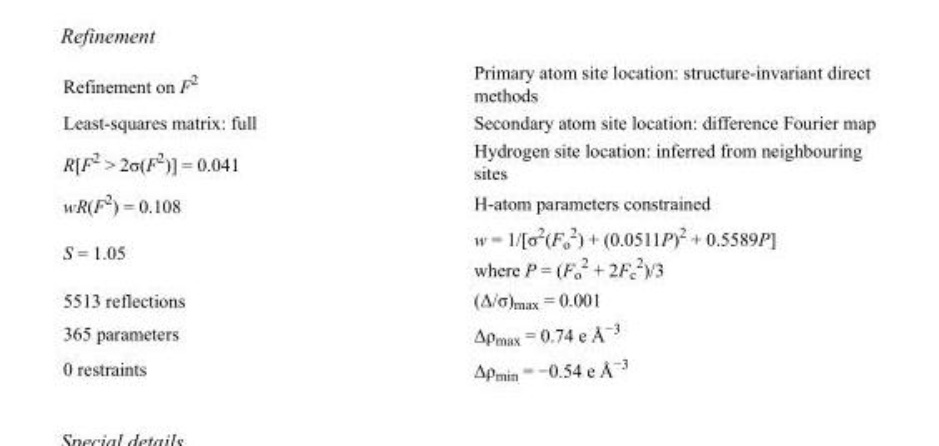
<table><tbody><tr><td>Refinement on F<sup>2</sup></td><td>Primary atom site location: structure-invariant direct methods</td></tr><tr><td>Least-squares matrix: full</td><td>Secondary atom site location: difference Fourier map</td></tr><tr><td>R[F<sup>2</sup> &gt; 2σ(F<sup>2</sup>)] = 0.041</td><td>Hydrogen site location: inferred from neighbouring sites</td></tr><tr><td>wR(F<sup>2</sup>) = 0.108</td><td>H-atom parameters constrained</td></tr><tr><td>S = 1.05</td><td>w = 1/[σ<sup>2</sup>(F<sub>o</sub> <sup>2</sup>) + (0.0511P)<sup>2</sup> + 0.5589P] where P = (F<sub>o</sub> <sup>2</sup> + 2F<sub>c</sub> <sup>2</sup>)/3</td></tr><tr><td>5513 reflections</td><td>(Δ/σ)<sub>max</sub> = 0.001</td></tr><tr><td>365 parameters</td><td>Δρ<sub>max</sub> = 0.74 e Å<sup>−3</sup></td></tr><tr><td>0 restraints</td><td>Δρ<sub>min</sub> = −0.54 e Å<sup>−3</sup></td></tr></tbody></table>